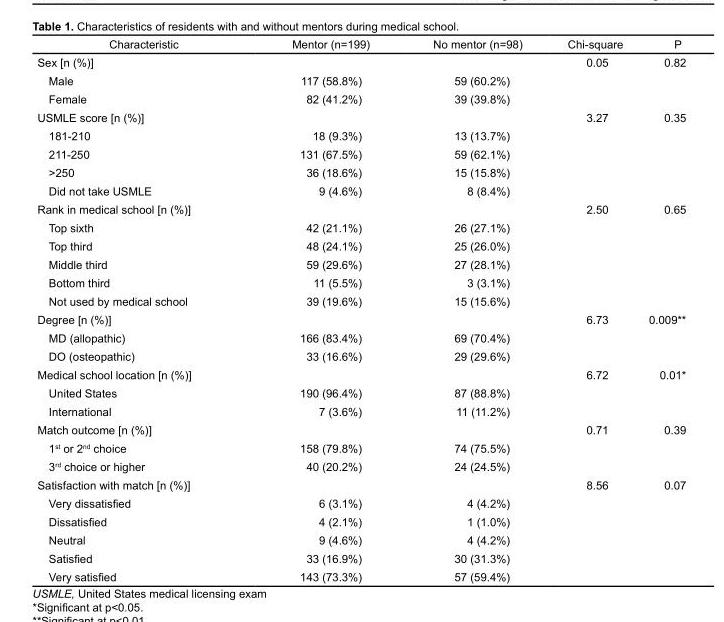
<table><thead><tr><td>Characteristic</td><td>Mentor (n=199)</td><td>No mentor (n=98)</td><td>Chi-square</td><td>P</td></tr></thead><tbody><tr><td>Sex [n (%)]</td><td></td><td></td><td>0.05</td><td>0.82</td></tr><tr><td>Male</td><td>117 (58.8%)</td><td>59 (60.2%)</td><td></td><td></td></tr><tr><td>Female</td><td>82 (41.2%)</td><td>39 (39.8%)</td><td></td><td></td></tr><tr><td>USMLE score [n (%)]</td><td></td><td></td><td>3.27</td><td>0.35</td></tr><tr><td>181-210</td><td>18 (9.3%)</td><td>13 (13.7%)</td><td></td><td></td></tr><tr><td>211-250</td><td>131 (67.5%)</td><td>59 (62.1%)</td><td></td><td></td></tr><tr><td>&gt;250</td><td>36 (18.6%)</td><td>15 (15.8%)</td><td></td><td></td></tr><tr><td>Did not take USMLE</td><td>9 (4.6%)</td><td>8 (8.4%)</td><td></td><td></td></tr><tr><td>Rank in medical school [n (%)]</td><td></td><td></td><td>2.50</td><td>0.65</td></tr><tr><td>Top sixth</td><td>42 (21.1%)</td><td>26 (27.1%)</td><td></td><td></td></tr><tr><td>Top third</td><td>48 (24.1%)</td><td>25 (26.0%)</td><td></td><td></td></tr><tr><td>Middle third</td><td>59 (29.6%)</td><td>27 (28.1%)</td><td></td><td></td></tr><tr><td>Bottom third</td><td>11 (5.5%)</td><td>3 (3.1%)</td><td></td><td></td></tr><tr><td>Not used by medical school</td><td>39 (19.6%)</td><td>15 (15.6%)</td><td></td><td></td></tr><tr><td>Degree [n (%)]</td><td></td><td></td><td>6.73</td><td>0.009**</td></tr><tr><td>MD (allopathic)</td><td>166 (83.4%)</td><td>69 (70.4%)</td><td></td><td></td></tr><tr><td>DO (osteopathic)</td><td>33 (16.6%)</td><td>29 (29.6%)</td><td></td><td></td></tr><tr><td>Medical school location [n (%)]</td><td></td><td></td><td>6.72</td><td>0.01*</td></tr><tr><td>United States</td><td>190 (96.4%)</td><td>87 (88.8%)</td><td></td><td></td></tr><tr><td>International</td><td>7 (3.6%)</td><td>11 (11.2%)</td><td></td><td></td></tr><tr><td>Match outcome [n (%)]</td><td></td><td></td><td>0.71</td><td>0.39</td></tr><tr><td>1<sup>st</sup> or 2<sup>nd</sup> choice</td><td>158 (79.8%)</td><td>74 (75.5%)</td><td></td><td></td></tr><tr><td>3<sup>rd</sup> choice or higher</td><td>40 (20.2%)</td><td>24 (24.5%)</td><td></td><td></td></tr><tr><td>Satisfaction with match [n (%)]</td><td></td><td></td><td>8.56</td><td>0.07</td></tr><tr><td>Very dissatisfied</td><td>6 (3.1%)</td><td>4 (4.2%)</td><td></td><td></td></tr><tr><td>Dissatisfied</td><td>4 (2.1%)</td><td>1 (1.0%)</td><td></td><td></td></tr><tr><td>Neutral</td><td>9 (4.6%)</td><td>4 (4.2%)</td><td></td><td></td></tr><tr><td>Satisfied</td><td>33 (16.9%)</td><td>30 (31.3%)</td><td></td><td></td></tr><tr><td>Very satisfied</td><td>143 (73.3%)</td><td>57 (59.4%)</td><td></td><td></td></tr></tbody></table>